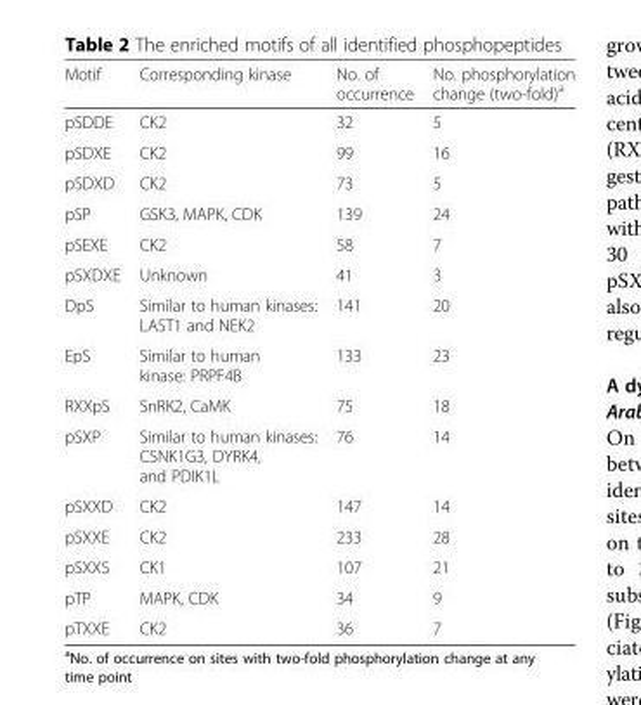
<table><thead><tr><td>Motif</td><td>Corresponding kinase</td><td>No. of occurrence</td><td>No. phosphorylation change (two-fold)<sup>a</sup></td></tr></thead><tbody><tr><td>pSDDE</td><td>CK2</td><td>32</td><td>5</td></tr><tr><td>pSDXE</td><td>CK2</td><td>99</td><td>16</td></tr><tr><td>pSDXD</td><td>CK2</td><td>73</td><td>5</td></tr><tr><td>pSP</td><td>GSK3, MAPK, CDK</td><td>139</td><td>24</td></tr><tr><td>pSEXE</td><td>CK2</td><td>58</td><td>7</td></tr><tr><td>pSXDXE</td><td>Unknown</td><td>41</td><td>3</td></tr><tr><td>DpS</td><td>Similar to human kinases: LAST1 and NEK2</td><td>141</td><td>20</td></tr><tr><td>EpS</td><td>Similar to human kinase: PRPF4B</td><td>133</td><td>23</td></tr><tr><td>RXXpS</td><td>SnRK2, CaMK</td><td>75</td><td>18</td></tr><tr><td>pSXP</td><td>Similar to human kinases: CSNK1G3, DYRK4, and PDIK1L</td><td>76</td><td>14</td></tr><tr><td>pSXXD</td><td>CK2</td><td>147</td><td>14</td></tr><tr><td>pSXXE</td><td>CK2</td><td>233</td><td>28</td></tr><tr><td>pSXXS</td><td>CK1</td><td>107</td><td>21</td></tr><tr><td>pTP</td><td>MAPK, CDK</td><td>34</td><td>9</td></tr><tr><td>pTXXE</td><td>CK2</td><td>36</td><td>7</td></tr></tbody></table>